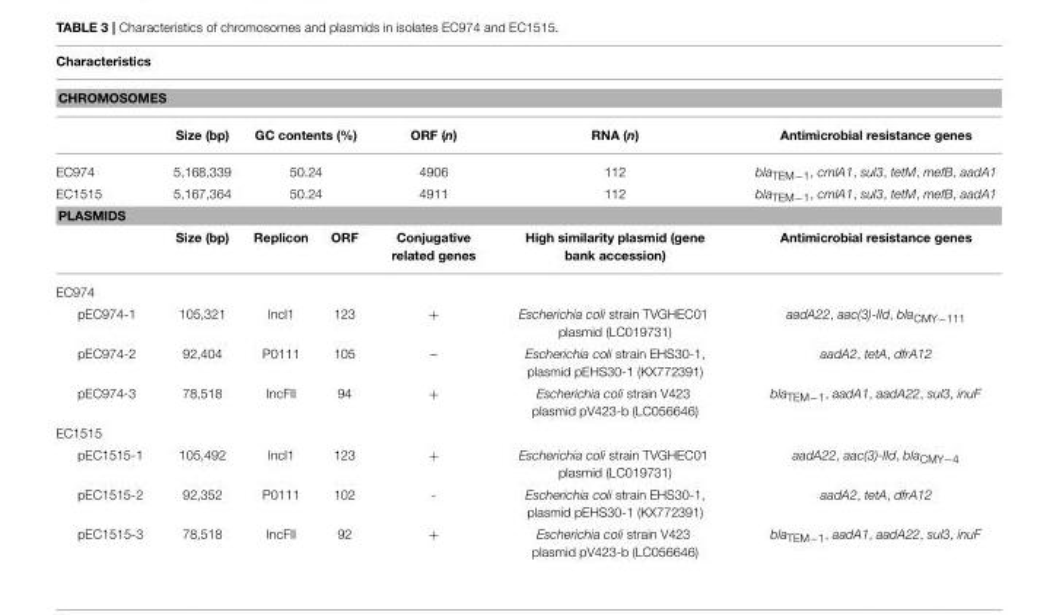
<table><thead><tr><td colspan="7">Characteristics</td></tr></thead><tbody><tr><td colspan="7">CHROMOSOMES</td></tr><tr><td></td><td>Size (bp)</td><td colspan="2">GC contents (%)</td><td>ORF (n)</td><td>RNA (n)</td><td>Antimicrobial resistance genes</td></tr><tr><td>EC974</td><td>5,168,339</td><td colspan="2">50.24</td><td>4906</td><td>112</td><td>bla<sub>TEM−1</sub>, cmlA1, sul3, tetM, mefB, aadA1</td></tr><tr><td>EC1515</td><td>5,167,364</td><td colspan="2">50.24</td><td>4911</td><td>112</td><td>bla<sub>TEM−1</sub>, cmlA1, sul3, tetM, mefB, aadA1</td></tr><tr><td colspan="7">PLASMIDS</td></tr><tr><td></td><td>Size (bp)</td><td>Replicon</td><td>ORF</td><td>Conjugative related genes</td><td>High similarity plasmid (gene bank accession)</td><td>Antimicrobial resistance genes</td></tr><tr><td colspan="7">EC974</td></tr><tr><td>pEC974-1</td><td>105,321</td><td>IncI1</td><td>123</td><td>+</td><td>Escherichia coli strain TVGHEC01 plasmid (LC019731)</td><td>aadA22, aac(3)-IId, bla<sub>CMY−111</sub></td></tr><tr><td>pEC974-2</td><td>92,404</td><td>P0111</td><td>105</td><td>–</td><td>Escherichia coli strain EHS30-1, plasmid pEHS30-1 (KX772391)</td><td>aadA2, tetA, dfrA12</td></tr><tr><td>pEC974-3</td><td>78,518</td><td>IncFII</td><td>94</td><td>+</td><td>Escherichia coli strain V423 plasmid pV423-b (LC056646)</td><td>bla<sub>TEM−1</sub>, aadA1, aadA22, sul3, inuF</td></tr><tr><td colspan="7">EC1515</td></tr><tr><td>pEC1515-1</td><td>105,492</td><td>IncI1</td><td>123</td><td>+</td><td>Escherichia coli strain TVGHEC01 plasmid (LC019731)</td><td>aadA22, aac(3)-IId, bla<sub>CMY−4</sub></td></tr><tr><td>pEC1515-2</td><td>92,352</td><td>P0111</td><td>102</td><td>-</td><td>Escherichia coli strain EHS30-1, plasmid pEHS30-1 (KX772391)</td><td>aadA2, tetA, dfrA12</td></tr><tr><td>pEC1515-3</td><td>78,518</td><td>IncFII</td><td>92</td><td>+</td><td>Escherichia coli strain V423 plasmid pV423-b (LC056646)</td><td>bla<sub>TEM−1</sub>, aadA1, aadA22, sul3, inuF</td></tr></tbody></table>